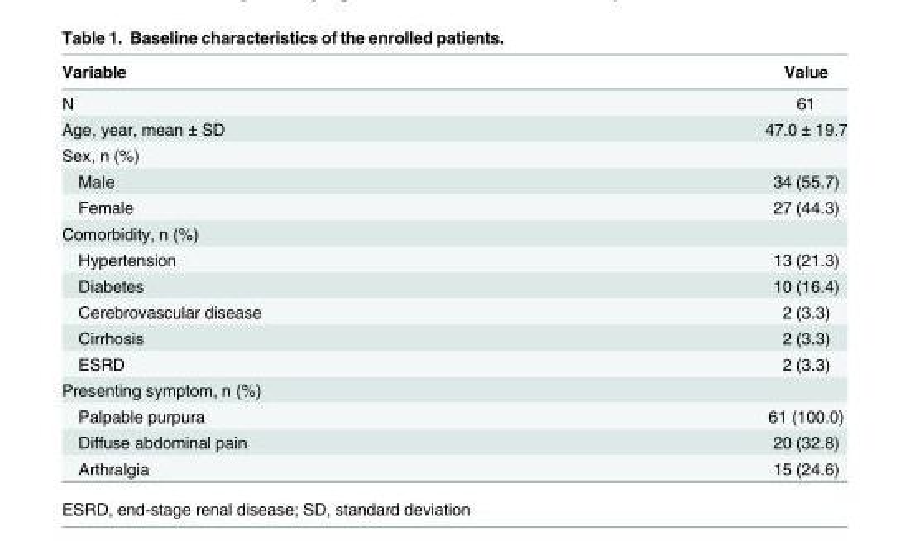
<table><thead><tr><td>Variable</td><td>Value</td></tr></thead><tbody><tr><td>N</td><td>61</td></tr><tr><td>Age, year, mean ± SD</td><td>47.0 ± 19.7</td></tr><tr><td colspan="2">Sex, n (%)</td></tr><tr><td>Male</td><td>34 (55.7)</td></tr><tr><td>Female</td><td>27 (44.3)</td></tr><tr><td colspan="2">Comorbidity, n (%)</td></tr><tr><td>Hypertension</td><td>13 (21.3)</td></tr><tr><td>Diabetes</td><td>10 (16.4)</td></tr><tr><td>Cerebrovascular disease</td><td>2 (3.3)</td></tr><tr><td>Cirrhosis</td><td>2 (3.3)</td></tr><tr><td>ESRD</td><td>2 (3.3)</td></tr><tr><td colspan="2">Presenting symptom, n (%)</td></tr><tr><td>Palpable purpura</td><td>61 (100.0)</td></tr><tr><td>Diffuse abdominal pain</td><td>20 (32.8)</td></tr><tr><td>Arthralgia</td><td>15 (24.6)</td></tr></tbody></table>